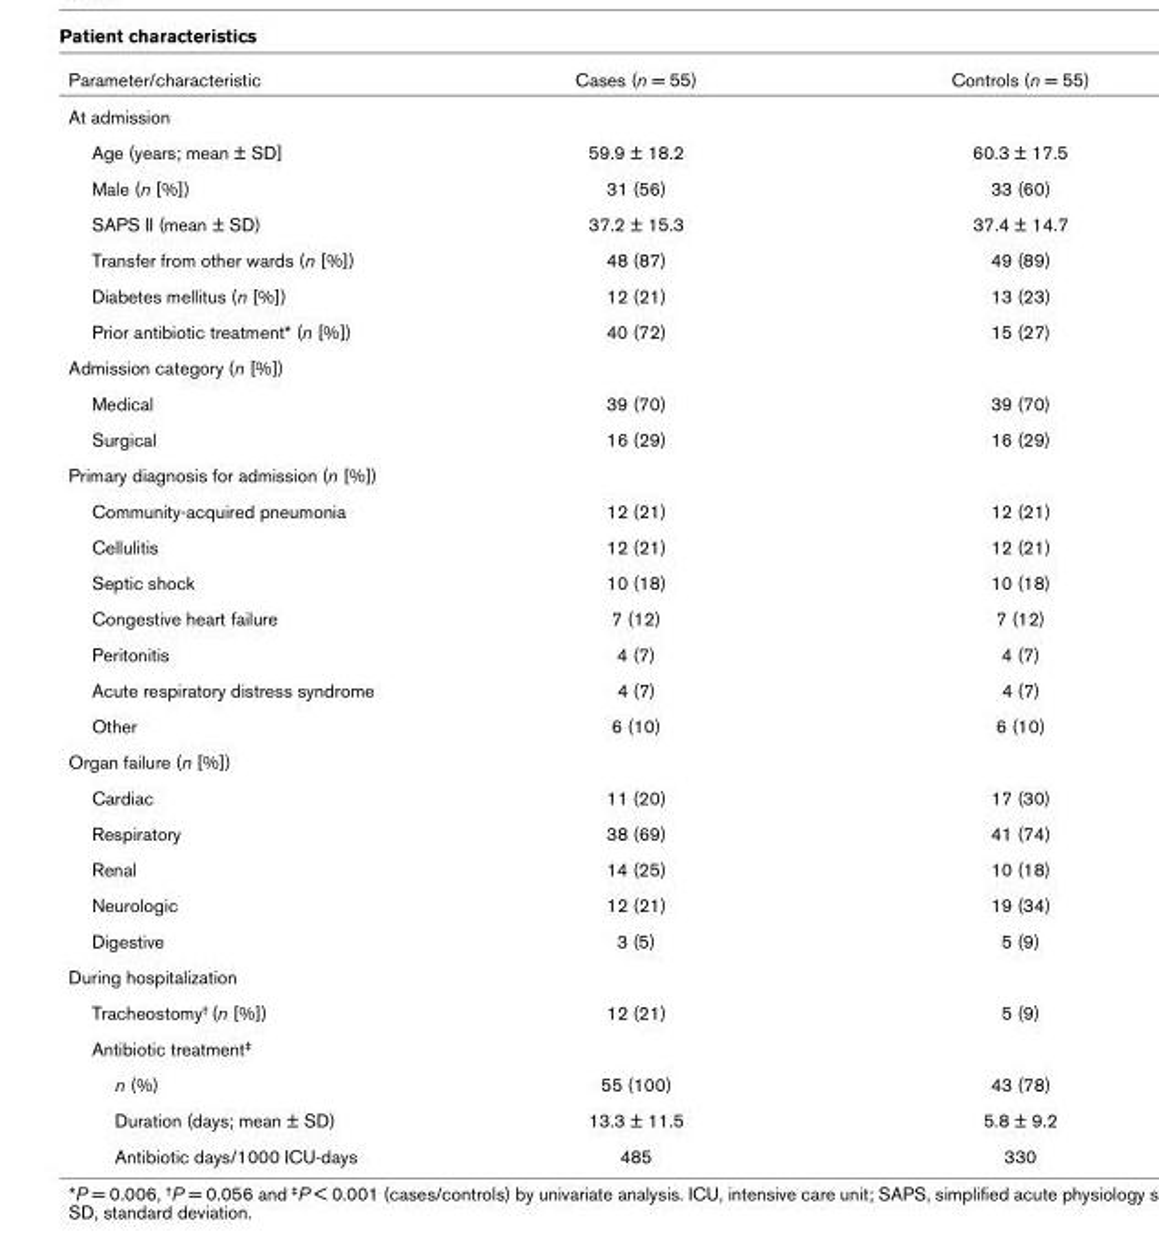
<table><thead><tr><td>Parameter/characteristic</td><td>Cases (n = 55)</td><td>Controls (n = 55)</td></tr></thead><tbody><tr><td colspan="3">At admission</td></tr><tr><td>Age (years; mean ± SD]</td><td>59.9 ± 18.2</td><td>60.3 ± 17.5</td></tr><tr><td>Male (n [%])</td><td>31 (56)</td><td>33 (60)</td></tr><tr><td>SAPS II (mean ± SD)</td><td>37.2 ± 15.3</td><td>37.4 ± 14.7</td></tr><tr><td>Transfer from other wards (n [%])</td><td>48 (87)</td><td>49 (89)</td></tr><tr><td>Diabetes mellitus (n [%])</td><td>12 (21)</td><td>13 (23)</td></tr><tr><td>Prior antibiotic treatment* (n [%])</td><td>40 (72)</td><td>15 (27)</td></tr><tr><td colspan="3">Admission category (n [%])</td></tr><tr><td>Medical</td><td>39 (70)</td><td>39 (70)</td></tr><tr><td>Surgical</td><td>16 (29)</td><td>16 (29)</td></tr><tr><td colspan="3">Primary diagnosis for admission (n [%])</td></tr><tr><td>Community-acquired pneumonia</td><td>12 (21)</td><td>12 (21)</td></tr><tr><td>Cellulitis</td><td>12 (21)</td><td>12 (21)</td></tr><tr><td>Septic shock</td><td>10 (18)</td><td>10 (18)</td></tr><tr><td>Congestive heart failure</td><td>7 (12)</td><td>7 (12)</td></tr><tr><td>Peritonitis</td><td>4 (7)</td><td>4 (7)</td></tr><tr><td>Acute respiratory distress syndrome</td><td>4 (7)</td><td>4 (7)</td></tr><tr><td>Other</td><td>6 (10)</td><td>6 (10)</td></tr><tr><td colspan="3">Organ failure (n [%])</td></tr><tr><td>Cardiac</td><td>11 (20)</td><td>17 (30)</td></tr><tr><td>Respiratory</td><td>38 (69)</td><td>41 (74)</td></tr><tr><td>Renal</td><td>14 (25)</td><td>10 (18)</td></tr><tr><td>Neurologic</td><td>12 (21)</td><td>19 (34)</td></tr><tr><td>Digestive</td><td>3 (5)</td><td>5 (9)</td></tr><tr><td colspan="3">During hospitalization</td></tr><tr><td>Tracheostomy† (n [%])</td><td>12 (21)</td><td>5 (9)</td></tr><tr><td colspan="3">Antibiotic treatment‡</td></tr><tr><td>n (%)</td><td>55 (100)</td><td>43 (78)</td></tr><tr><td>Duration (days; mean ± SD)</td><td>13.3 ± 11.5</td><td>5.8 ± 9.2</td></tr><tr><td>Antibiotic days/1000 ICU-days</td><td>485</td><td>330</td></tr></tbody></table>